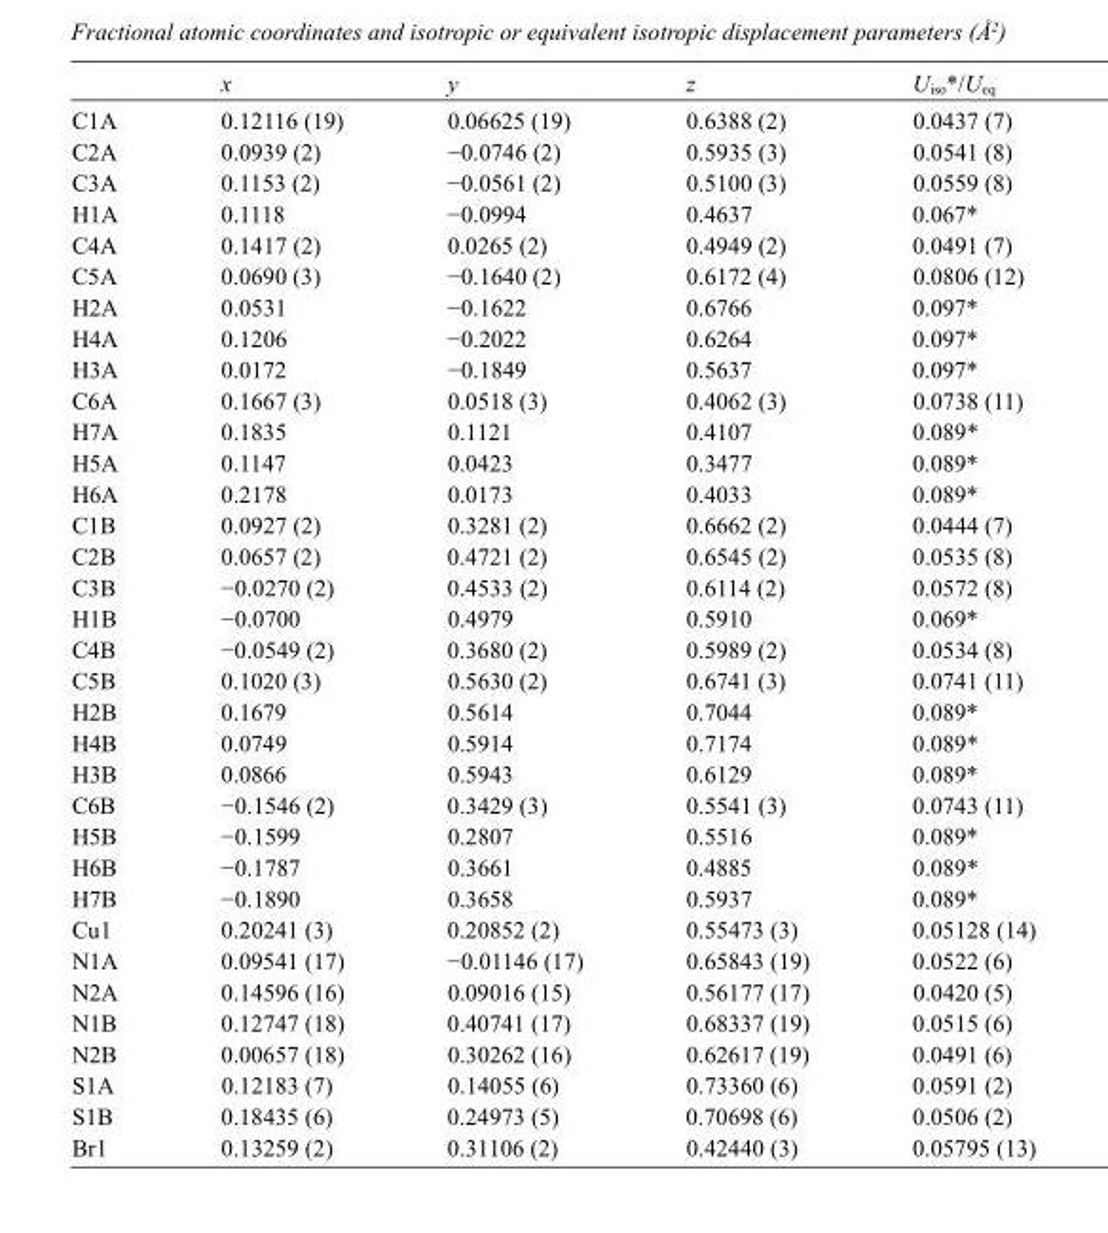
<table><thead><tr><td></td><td>x</td><td>y</td><td>z</td><td>U<sub>iso</sub>*/U<sub>eq</sub></td></tr></thead><tbody><tr><td>C1A</td><td>0.12116 (19)</td><td>0.06625 (19)</td><td>0.6388 (2)</td><td>0.0437 (7)</td></tr><tr><td>C2A</td><td>0.0939 (2)</td><td>−0.0746 (2)</td><td>0.5935 (3)</td><td>0.0541 (8)</td></tr><tr><td>C3A</td><td>0.1153 (2)</td><td>−0.0561 (2)</td><td>0.5100 (3)</td><td>0.0559 (8)</td></tr><tr><td>H1A</td><td>0.1118</td><td>−0.0994</td><td>0.4637</td><td>0.067*</td></tr><tr><td>C4A</td><td>0.1417 (2)</td><td>0.0265 (2)</td><td>0.4949 (2)</td><td>0.0491 (7)</td></tr><tr><td>C5A</td><td>0.0690 (3)</td><td>−0.1640 (2)</td><td>0.6172 (4)</td><td>0.0806 (12)</td></tr><tr><td>H2A</td><td>0.0531</td><td>−0.1622</td><td>0.6766</td><td>0.097*</td></tr><tr><td>H4A</td><td>0.1206</td><td>−0.2022</td><td>0.6264</td><td>0.097*</td></tr><tr><td>H3A</td><td>0.0172</td><td>−0.1849</td><td>0.5637</td><td>0.097*</td></tr><tr><td>C6A</td><td>0.1667 (3)</td><td>0.0518 (3)</td><td>0.4062 (3)</td><td>0.0738 (11)</td></tr><tr><td>H7A</td><td>0.1835</td><td>0.1121</td><td>0.4107</td><td>0.089*</td></tr><tr><td>H5A</td><td>0.1147</td><td>0.0423</td><td>0.3477</td><td>0.089*</td></tr><tr><td>H6A</td><td>0.2178</td><td>0.0173</td><td>0.4033</td><td>0.089*</td></tr><tr><td>C1B</td><td>0.0927 (2)</td><td>0.3281 (2)</td><td>0.6662 (2)</td><td>0.0444 (7)</td></tr><tr><td>C2B</td><td>0.0657 (2)</td><td>0.4721 (2)</td><td>0.6545 (2)</td><td>0.0535 (8)</td></tr><tr><td>C3B</td><td>−0.0270 (2)</td><td>0.4533 (2)</td><td>0.6114 (2)</td><td>0.0572 (8)</td></tr><tr><td>H1B</td><td>−0.0700</td><td>0.4979</td><td>0.5910</td><td>0.069*</td></tr><tr><td>C4B</td><td>−0.0549 (2)</td><td>0.3680 (2)</td><td>0.5989 (2)</td><td>0.0534 (8)</td></tr><tr><td>C5B</td><td>0.1020 (3)</td><td>0.5630 (2)</td><td>0.6741 (3)</td><td>0.0741 (11)</td></tr><tr><td>H2B</td><td>0.1679</td><td>0.5614</td><td>0.7044</td><td>0.089*</td></tr><tr><td>H4B</td><td>0.0749</td><td>0.5914</td><td>0.7174</td><td>0.089*</td></tr><tr><td>H3B</td><td>0.0866</td><td>0.5943</td><td>0.6129</td><td>0.089*</td></tr><tr><td>C6B</td><td>−0.1546 (2)</td><td>0.3429 (3)</td><td>0.5541 (3)</td><td>0.0743 (11)</td></tr><tr><td>H5B</td><td>−0.1599</td><td>0.2807</td><td>0.5516</td><td>0.089*</td></tr><tr><td>H6B</td><td>−0.1787</td><td>0.3661</td><td>0.4885</td><td>0.089*</td></tr><tr><td>H7B</td><td>−0.1890</td><td>0.3658</td><td>0.5937</td><td>0.089*</td></tr><tr><td>Cu1</td><td>0.20241 (3)</td><td>0.20852 (2)</td><td>0.55473 (3)</td><td>0.05128 (14)</td></tr><tr><td>N1A</td><td>0.09541 (17)</td><td>−0.01146 (17)</td><td>0.65843 (19)</td><td>0.0522 (6)</td></tr><tr><td>N2A</td><td>0.14596 (16)</td><td>0.09016 (15)</td><td>0.56177 (17)</td><td>0.0420 (5)</td></tr><tr><td>N1B</td><td>0.12747 (18)</td><td>0.40741 (17)</td><td>0.68337 (19)</td><td>0.0515 (6)</td></tr><tr><td>N2B</td><td>0.00657 (18)</td><td>0.30262 (16)</td><td>0.62617 (19)</td><td>0.0491 (6)</td></tr><tr><td>S1A</td><td>0.12183 (7)</td><td>0.14055 (6)</td><td>0.73360 (6)</td><td>0.0591 (2)</td></tr><tr><td>S1B</td><td>0.18435 (6)</td><td>0.24973 (5)</td><td>0.70698 (6)</td><td>0.0506 (2)</td></tr><tr><td>Br1</td><td>0.13259 (2)</td><td>0.31106 (2)</td><td>0.42440 (3)</td><td>0.05795 (13)</td></tr></tbody></table>